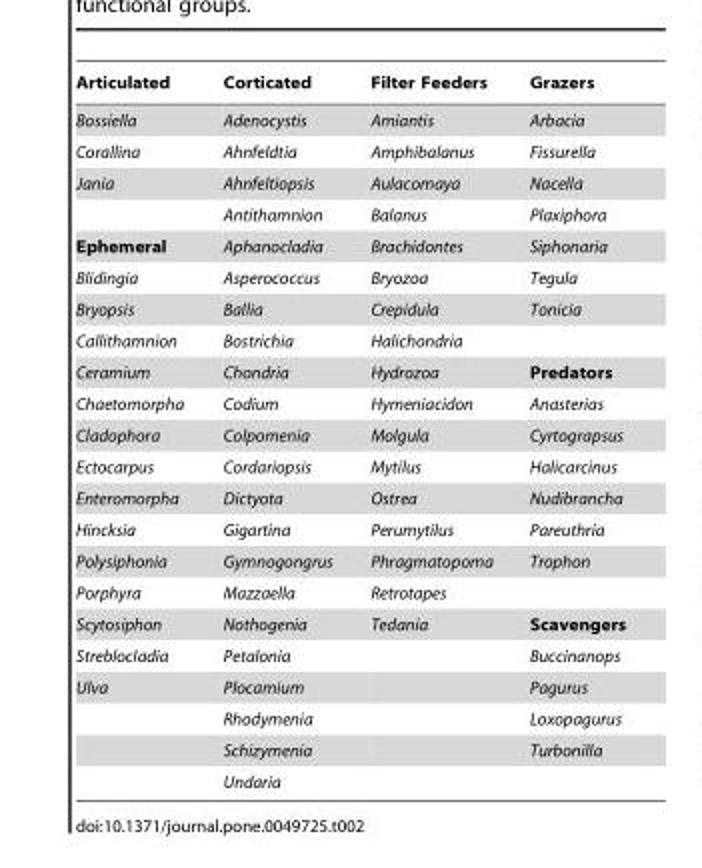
<table><thead><tr><td>Articulated</td><td>Corticated</td><td>Filter Feeders</td><td>Grazers</td></tr></thead><tbody><tr><td>Bossiella</td><td>Adenocystis</td><td>Amiantis</td><td>Arbacia</td></tr><tr><td>Corallina</td><td>Ahnfeldtia</td><td>Amphibalanus</td><td>Fissurella</td></tr><tr><td rowspan="2">Jania</td><td>Ahnfeltiopsis</td><td>Aulacomaya</td><td>Nacella</td></tr><tr><td>Antithamnion</td><td>Balanus</td><td>Plaxiphora</td></tr><tr><td>Ephemeral</td><td>Aphanocladia</td><td>Brachidontes</td><td>Siphonaria</td></tr><tr><td>Blidingia</td><td>Asperococcus</td><td>Bryozoa</td><td>Tegula</td></tr><tr><td>Bryopsis</td><td>Ballia</td><td>Crepidula</td><td>Tonicia</td></tr><tr><td>Callithamnion</td><td>Bostrichia</td><td>Halichondria</td><td></td></tr><tr><td>Ceramium</td><td>Chondria</td><td>Hydrozoa</td><td>Predators</td></tr><tr><td>Chaetomorpha</td><td>Codium</td><td>Hymeniacidon</td><td>Anasterias</td></tr><tr><td>Cladophora</td><td>Colpomenia</td><td>Molgula</td><td>Cyrtograpsus</td></tr><tr><td>Ectocarpus</td><td>Cordariopsis</td><td>Mytilus</td><td>Halicarcinus</td></tr><tr><td>Enteromorpha</td><td>Dictyota</td><td>Ostrea</td><td>Nudibrancha</td></tr><tr><td>Hincksia</td><td>Gigartina</td><td>Perumytilus</td><td>Pareuthria</td></tr><tr><td>Polysiphonia</td><td>Gymnogongrus</td><td>Phragmatopoma</td><td>Trophon</td></tr><tr><td>Porphyra</td><td>Mazzaella</td><td>Retrotapes</td><td></td></tr><tr><td>Scytosiphon</td><td>Nothogenia</td><td>Tedania</td><td>Scavengers</td></tr><tr><td>Streblocladia</td><td>Petalonia</td><td></td><td>Buccinanops</td></tr><tr><td rowspan="4">Ulva</td><td>Plocamium</td><td></td><td>Pagurus</td></tr><tr><td>Rhodymenia</td><td></td><td>Loxopagurus</td></tr><tr><td>Schizymenia</td><td></td><td>Turbonilla</td></tr><tr><td>Undaria</td><td></td><td></td></tr></tbody></table>